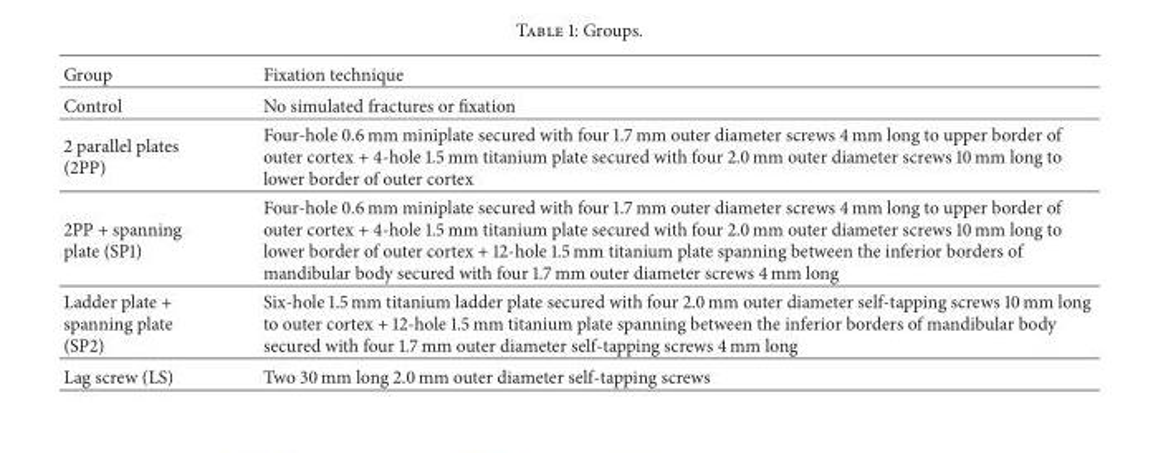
<table><thead><tr><td>Group</td><td>Fixation technique</td></tr></thead><tbody><tr><td>Control</td><td>No simulated fractures or fixation</td></tr><tr><td>2 parallel plates (2PP)</td><td>Four-hole 0.6 mm miniplate secured with four 1.7 mm outer diameter screws 4 mm long to upper border of outer cortex + 4-hole 1.5 mm titanium plate secured with four 2.0 mm outer diameter screws 10 mm long to lower border of outer cortex</td></tr><tr><td>2PP + spanning plate (SP1)</td><td>Four-hole 0.6 mm miniplate secured with four 1.7 mm outer diameter screws 4 mm long to upper border of outer cortex + 4-hole 1.5 mm titanium plate secured with four 2.0 mm outer diameter screws 10 mm long to lower border of outer cortex + 12-hole 1.5 mm titanium plate spanning between the inferior borders of mandibular body secured with four 1.7 mm outer diameter screws 4 mm long</td></tr><tr><td>Ladder plate + spanning plate (SP2)</td><td>Six-hole 1.5 mm titanium ladder plate secured with four 2.0 mm outer diameter self-tapping screws 10 mm long to outer cortex + 12-hole 1.5 mm titanium plate spanning between the inferior borders of mandibular body secured with four 1.7 mm outer diameter self-tapping screws 4 mm long</td></tr><tr><td>Lag screw (LS)</td><td>Two 30 mm long 2.0 mm outer diameter self-tapping screws</td></tr></tbody></table>